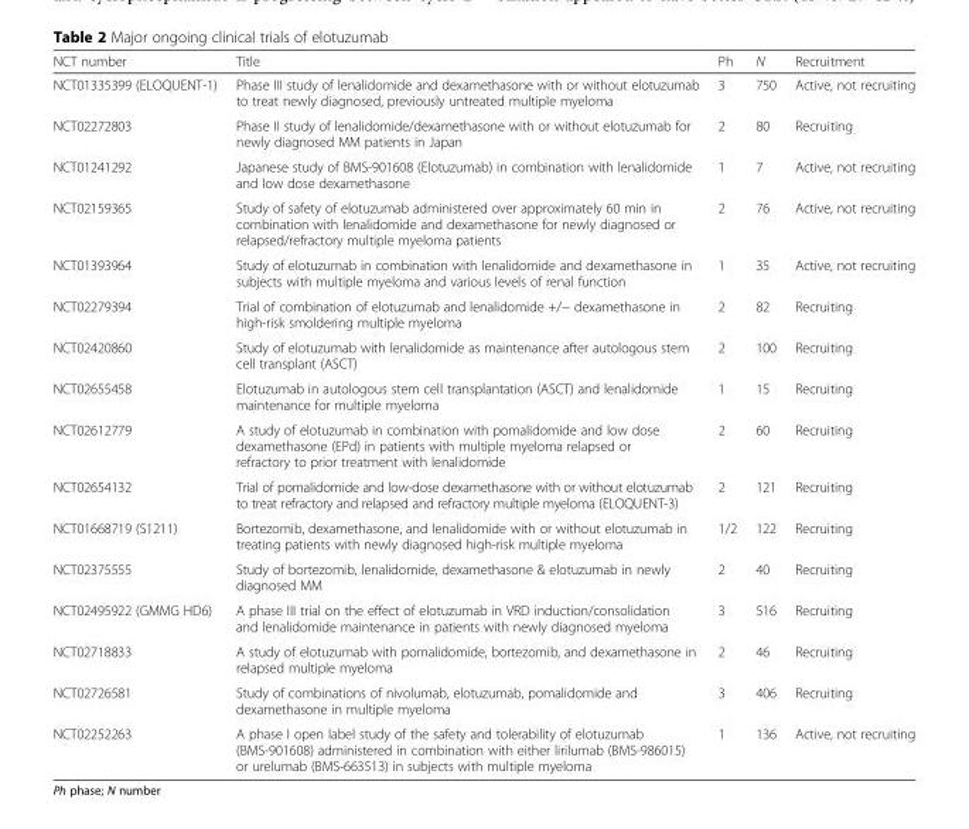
<table><thead><tr><td>NCT number</td><td>Title</td><td>Ph</td><td>N</td><td>Recruitment</td></tr></thead><tbody><tr><td>NCT01335399 (ELOQUENT-1)</td><td>Phase III study of lenalidomide and dexamethasone with or without elotuzumab to treat newly diagnosed, previously untreated multiple myeloma</td><td>3</td><td>750</td><td>Active, not recruiting</td></tr><tr><td>NCT02272803</td><td>Phase II study of lenalidomide/dexamethasone with or without elotuzumab for newly diagnosed MM patients in Japan</td><td>2</td><td>80</td><td>Recruiting</td></tr><tr><td>NCT01241292</td><td>Japanese study of BMS-901608 (Elotuzumab) in combination with lenalidomide and low dose dexamethasone</td><td>1</td><td>7</td><td>Active, not recruiting</td></tr><tr><td>NCT02159365</td><td>Study of safety of elotuzumab administered over approximately 60 min in combination with lenalidomide and dexamethasone for newly diagnosed or relapsed/refractory multiple myeloma patients</td><td>2</td><td>76</td><td>Active, not recruiting</td></tr><tr><td>NCT01393964</td><td>Study of elotuzumab in combination with lenalidomide and dexamethasone in subjects with multiple myeloma and various levels of renal function</td><td>1</td><td>35</td><td>Active, not recruiting</td></tr><tr><td>NCT02279394</td><td>Trial of combination of elotuzumab and lenalidomide +/− dexamethasone in high-risk smoldering multiple myeloma</td><td>2</td><td>82</td><td>Recruiting</td></tr><tr><td>NCT02420860</td><td>Study of elotuzumab with lenalidomide as maintenance after autologous stem cell transplant (ASCT)</td><td>2</td><td>100</td><td>Recruiting</td></tr><tr><td>NCT02655458</td><td>Elotuzumab in autologous stem cell transplantation (ASCT) and lenalidomide maintenance for multiple myeloma</td><td>1</td><td>15</td><td>Recruiting</td></tr><tr><td>NCT02612779</td><td>A study of elotuzumab in combination with pomalidomide and low dose dexamethasone (EPd) in patients with multiple myeloma relapsed or refractory to prior treatment with lenalidomide</td><td>2</td><td>60</td><td>Recruiting</td></tr><tr><td>NCT02654132</td><td>Trial of pomalidomide and low-dose dexamethasone with or without elotuzumab to treat refractory and relapsed and refractory multiple myeloma (ELOQUENT-3)</td><td>2</td><td>121</td><td>Recruiting</td></tr><tr><td>NCT01668719 (S1211)</td><td>Bortezomib, dexamethasone, and lenalidomide with or without elotuzumab in treating patients with newly diagnosed high-risk multiple myeloma</td><td>1/2</td><td>122</td><td>Recruiting</td></tr><tr><td>NCT02375555</td><td>Study of bortezomib, lenalidomide, dexamethasone &amp; elotuzumab in newly diagnosed MM</td><td>2</td><td>40</td><td>Recruiting</td></tr><tr><td>NCT02495922 (GMMG HD6)</td><td>A phase III trial on the effect of elotuzumab in VRD induction/consolidation and lenalidomide maintenance in patients with newly diagnosed myeloma</td><td>3</td><td>516</td><td>Recruiting</td></tr><tr><td>NCT02718833</td><td>A study of elotuzumab with pomalidomide, bortezomib, and dexamethasone in relapsed multiple myeloma</td><td>2</td><td>46</td><td>Recruiting</td></tr><tr><td>NCT02726581</td><td>Study of combinations of nivolumab, elotuzumab, pomalidomide and dexamethasone in multiple myeloma</td><td>3</td><td>406</td><td>Recruiting</td></tr><tr><td>NCT02252263</td><td>A phase I open label study of the safety and tolerability of elotuzumab (BMS-901608) administered in combination with either lirilumab (BMS-986015) or urelumab (BMS-663513) in subjects with multiple myeloma</td><td>1</td><td>136</td><td>Active, not recruiting</td></tr></tbody></table>